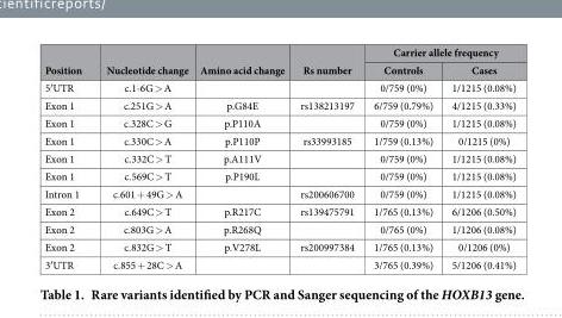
<table><thead><tr><td rowspan="2">Position</td><td rowspan="2">Nucleotide change</td><td rowspan="2">Amino acid change</td><td rowspan="2">Rs number</td><td colspan="2">Carrier allele frequency</td></tr><tr><td>Controls</td><td>Cases</td></tr></thead><tbody><tr><td>5′ UTR</td><td>c.1-6G &gt; A</td><td></td><td></td><td>0/759 (0%)</td><td>1/1215 (0.08%)</td></tr><tr><td>Exon 1</td><td>c.251G &gt; A</td><td>p.G84E</td><td>rs138213197</td><td>6/759 (0.79%)</td><td>4/1215 (0.33%)</td></tr><tr><td>Exon 1</td><td>c.328C &gt; G</td><td>p.P110A</td><td></td><td>0/759 (0%)</td><td>1/1215 (0.08%)</td></tr><tr><td>Exon 1</td><td>c.330C &gt; A</td><td>p.P110P</td><td>rs33993185</td><td>1/759 (0.13%)</td><td>0/1215 (0%)</td></tr><tr><td>Exon 1</td><td>c.332C &gt; T</td><td>p.A111V</td><td></td><td>0/759 (0%)</td><td>1/1215 (0.08%)</td></tr><tr><td>Exon 1</td><td>c.569C &gt; T</td><td>p.P190L</td><td></td><td>0/759 (0%)</td><td>1/1215 (0.08%)</td></tr><tr><td>Intron 1</td><td>c.601 + 49G &gt; A</td><td></td><td>rs200606700</td><td>0/759 (0%)</td><td>1/1215 (0.08%)</td></tr><tr><td>Exon 2</td><td>c.649C &gt; T</td><td>p.R217C</td><td>rs139475791</td><td>1/765 (0.13%)</td><td>6/1206 (0.50%)</td></tr><tr><td>Exon 2</td><td>c.803G &gt; A</td><td>p.R268Q</td><td></td><td>0/765 (0%)</td><td>1/1206 (0.08%)</td></tr><tr><td>Exon 2</td><td>c.832G &gt; T</td><td>p.V278L</td><td>rs200997384</td><td>1/765 (0.13%)</td><td>0/1206 (0%)</td></tr><tr><td>3′ UTR</td><td>c.855 + 28C &gt; A</td><td></td><td></td><td>3/765 (0.39%)</td><td>5/1206 (0.41%)</td></tr></tbody></table>